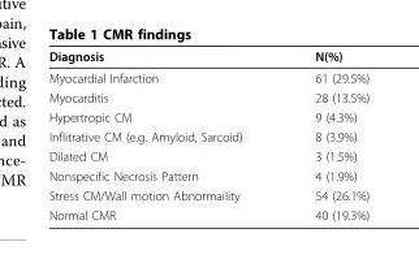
<table><thead><tr><td>Diagnosis</td><td>N(%)</td></tr></thead><tbody><tr><td>Myocardial Infarction</td><td>61 (29.5%)</td></tr><tr><td>Myocarditis</td><td>28 (13.5%)</td></tr><tr><td>Hypertropic CM</td><td>9 (4.3%)</td></tr><tr><td>Inflitrative CM (e.g. Amyloid, Sarcoid)</td><td>8 (3.9%)</td></tr><tr><td>Dilated CM</td><td>3 (1.5%)</td></tr><tr><td>Nonspecific Necrosis Pattern</td><td>4 (1.9%)</td></tr><tr><td>Stress CM/Wall motion Abnormaility</td><td>54 (26.1%)</td></tr><tr><td>Normal CMR</td><td>40 (19.3%)</td></tr></tbody></table>